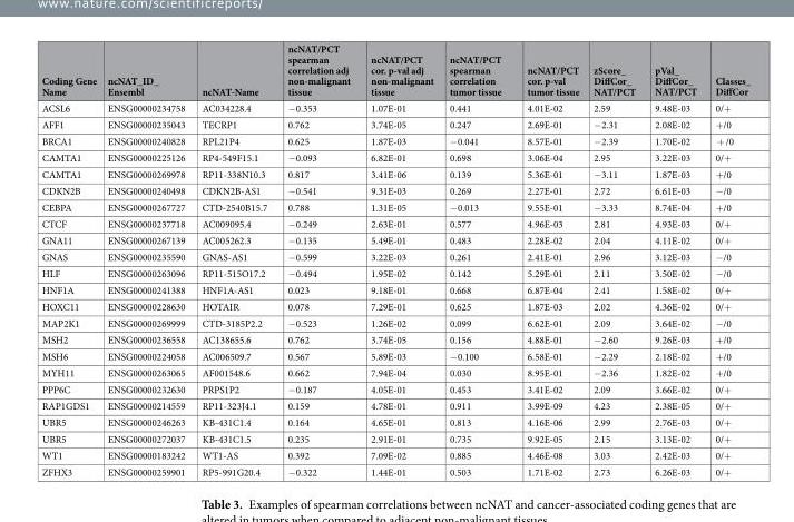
<table><thead><tr><td>Coding Gene Name</td><td>ncNAT_ID_ Ensembl</td><td>ncNAT-Name</td><td>ncNAT/PCT spearman correlation adj non-malignant tissue</td><td>ncNAT/PCT cor. p-val adj non-malignant tissue</td><td>ncNAT/PCT spearman correlation tumor tissue</td><td>ncNAT/PCT cor. p-val tumor tissue</td><td>zScore_ DiffCor_ NAT/PCT</td><td>pVal_ DiffCor_ NAT/PCT</td><td>Classes_ DiffCor</td></tr></thead><tbody><tr><td>ACSL6</td><td>ENSG00000234758</td><td>AC034228.4</td><td>−0.353</td><td>1.07E-01</td><td>0.441</td><td>4.01E-02</td><td>2.59</td><td>9.48E-03</td><td>0/+</td></tr><tr><td>AFF1</td><td>ENSG00000235043</td><td>TECRP1</td><td>0.762</td><td>3.74E-05</td><td>0.247</td><td>2.69E-01</td><td>−2.31</td><td>2.08E-02</td><td>+/0</td></tr><tr><td>BRCA1</td><td>ENSG00000240828</td><td>RPL21P4</td><td>0.625</td><td>1.87E-03</td><td>−0.041</td><td>8.57E-01</td><td>−2.39</td><td>1.70E-02</td><td>+ /0</td></tr><tr><td>CAMTA1</td><td>ENSG00000225126</td><td>RP4-549F15.1</td><td>−0.093</td><td>6.82E-01</td><td>0.698</td><td>3.06E-04</td><td>2.95</td><td>3.22E-03</td><td>0/+</td></tr><tr><td>CAMTA1</td><td>ENSG00000269978</td><td>RP11-338N10.3</td><td>0.817</td><td>3.41E-06</td><td>0.139</td><td>5.36E-01</td><td>−3.11</td><td>1.87E-03</td><td>+/0</td></tr><tr><td>CDKN2B</td><td>ENSG00000240498</td><td>CDKN2B-AS1</td><td>−0.541</td><td>9.31E-03</td><td>0.269</td><td>2.27E-01</td><td>2.72</td><td>6.61E-03</td><td>−/0</td></tr><tr><td>CEBPA</td><td>ENSG00000267727</td><td>CTD-2540B15.7</td><td>0.788</td><td>1.31E-05</td><td>−0.013</td><td>9.55E-01</td><td>−3.33</td><td>8.74E-04</td><td>+/0</td></tr><tr><td>CTCF</td><td>ENSG00000237718</td><td>AC009095.4</td><td>−0.249</td><td>2.63E-01</td><td>0.577</td><td>4.96E-03</td><td>2.81</td><td>4.93E-03</td><td>0/+</td></tr><tr><td>GNA11</td><td>ENSG00000267139</td><td>AC005262.3</td><td>−0.135</td><td>5.49E-01</td><td>0.483</td><td>2.28E-02</td><td>2.04</td><td>4.11E-02</td><td>0/+</td></tr><tr><td>GNAS</td><td>ENSG00000235590</td><td>GNAS-AS1</td><td>−0.599</td><td>3.22E-03</td><td>0.261</td><td>2.41E-01</td><td>2.96</td><td>3.12E-03</td><td>−/0</td></tr><tr><td>HLF</td><td>ENSG00000263096</td><td>RP11-515O17.2</td><td>−0.494</td><td>1.95E-02</td><td>0.142</td><td>5.29E-01</td><td>2.11</td><td>3.50E-02</td><td>−/0</td></tr><tr><td>HNF1A</td><td>ENSG00000241388</td><td>HNF1A-AS1</td><td>0.023</td><td>9.18E-01</td><td>0.668</td><td>6.87E-04</td><td>2.41</td><td>1.58E-02</td><td>0/+</td></tr><tr><td>HOXC11</td><td>ENSG00000228630</td><td>HOTAIR</td><td>0.078</td><td>7.29E-01</td><td>0.625</td><td>1.87E-03</td><td>2.02</td><td>4.36E-02</td><td>0/+</td></tr><tr><td>MAP2K1</td><td>ENSG00000269999</td><td>CTD-3185P2.2</td><td>−0.523</td><td>1.26E-02</td><td>0.099</td><td>6.62E-01</td><td>2.09</td><td>3.64E-02</td><td>−/0</td></tr><tr><td>MSH2</td><td>ENSG00000236558</td><td>AC138655.6</td><td>0.762</td><td>3.74E-05</td><td>0.156</td><td>4.88E-01</td><td>−2.60</td><td>9.26E-03</td><td>+/0</td></tr><tr><td>MSH6</td><td>ENSG00000224058</td><td>AC006509.7</td><td>0.567</td><td>5.89E-03</td><td>−0.100</td><td>6.58E-01</td><td>−2.29</td><td>2.18E-02</td><td>+/0</td></tr><tr><td>MYH11</td><td>ENSG00000263065</td><td>AF001548.6</td><td>0.662</td><td>7.94E-04</td><td>0.030</td><td>8.95E-01</td><td>−2.36</td><td>1.82E-02</td><td>+/0</td></tr><tr><td>PPP6C</td><td>ENSG00000232630</td><td>PRPS1P2</td><td>−0.187</td><td>4.05E-01</td><td>0.453</td><td>3.41E-02</td><td>2.09</td><td>3.66E-02</td><td>0/+</td></tr><tr><td>RAP1GDS1</td><td>ENSG00000214559</td><td>RP11-323J4.1</td><td>0.159</td><td>4.78E-01</td><td>0.911</td><td>3.99E-09</td><td>4.23</td><td>2.38E-05</td><td>0/+</td></tr><tr><td>UBR5</td><td>ENSG00000246263</td><td>KB-431C1.4</td><td>0.164</td><td>4.65E-01</td><td>0.813</td><td>4.16E-06</td><td>2.99</td><td>2.76E-03</td><td>0/+</td></tr><tr><td>UBR5</td><td>ENSG00000272037</td><td>KB-431C1.5</td><td>0.235</td><td>2.91E-01</td><td>0.735</td><td>9.92E-05</td><td>2.15</td><td>3.13E-02</td><td>0/+</td></tr><tr><td>WT1</td><td>ENSG00000183242</td><td>WT1-AS</td><td>0.392</td><td>7.09E-02</td><td>0.885</td><td>4.46E-08</td><td>3.03</td><td>2.42E-03</td><td>0/+</td></tr><tr><td>ZFHX3</td><td>ENSG00000259901</td><td>RP5-991G20.4</td><td>−0.322</td><td>1.44E-01</td><td>0.503</td><td>1.71E-02</td><td>2.73</td><td>6.26E-03</td><td>0/+</td></tr></tbody></table>